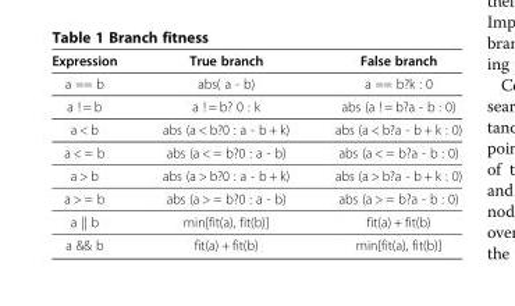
<table><thead><tr><td>Expression</td><td>True branch</td><td>False branch</td></tr></thead><tbody><tr><td>a == b</td><td>abs( a - b)</td><td>a == b?k : 0</td></tr><tr><td>a ! = b</td><td>a ! = b? 0 : k</td><td>abs (a ! = b?a - b : 0)</td></tr><tr><td>a &lt; b</td><td>abs (a &lt; b?0 : a - b + k)</td><td>abs (a &lt; b?a - b + k : 0)</td></tr><tr><td>a &lt; = b</td><td>abs (a &lt; = b?0 : a - b)</td><td>abs (a &lt; = b?a - b : 0)</td></tr><tr><td>a &gt; b</td><td>abs (a &gt; b?0 : a - b + k)</td><td>abs (a &gt; b?a - b + k : 0)</td></tr><tr><td>a &gt; = b</td><td>abs (a &gt; = b?0 : a - b)</td><td>abs (a &gt; = b?a - b : 0)</td></tr><tr><td>a || b</td><td>min[fit(a), fit(b)]</td><td>fit(a) + fit(b)</td></tr><tr><td>a &amp;&amp; b</td><td>fit(a) + fit(b)</td><td>min[fit(a), fit(b)]</td></tr></tbody></table>